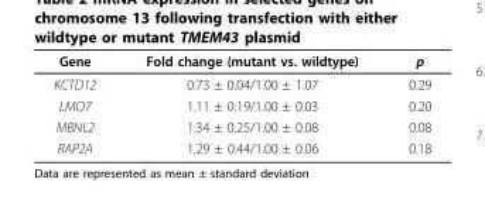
<table><thead><tr><td>Gene</td><td>Fold change (mutant vs. wildtype)</td><td>p</td></tr></thead><tbody><tr><td>KCTD12</td><td>0.73 ± 0.04/1.00 ± 1.07</td><td>0.29</td></tr><tr><td>LMO7</td><td>1.11 ± 0.19/1.00 ± 0.03</td><td>0.20</td></tr><tr><td>MBNL2</td><td>1.34 ± 0.25/1.00 ± 0.08</td><td>0.08</td></tr><tr><td>RAP2A</td><td>1.29 ± 0.44/1.00 ± 0.06</td><td>0.18</td></tr></tbody></table>